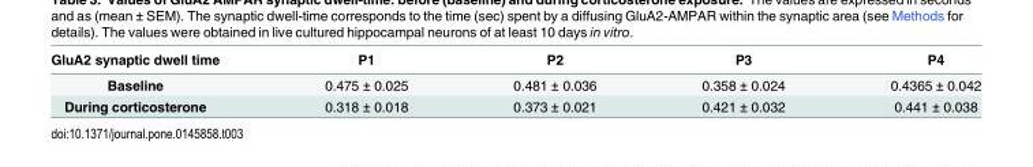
<table><thead><tr><td>GluA2 synaptic dwell time</td><td>P1</td><td>P2</td><td>P3</td><td>P4</td></tr></thead><tbody><tr><td>Baseline</td><td>0.475 ± 0.025</td><td>0.481 ± 0.036</td><td>0.358 ± 0.024</td><td>0.4365 ± 0.042</td></tr><tr><td>During corticosterone</td><td>0.318 ± 0.018</td><td>0.373 ± 0.021</td><td>0.421 ± 0.032</td><td>0.441 ± 0.038</td></tr></tbody></table>